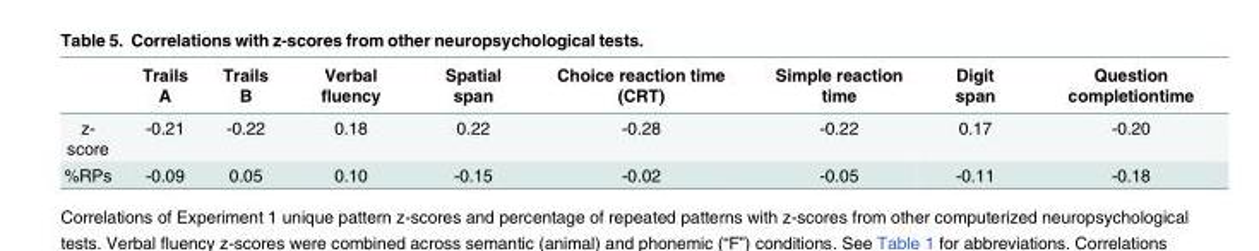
<table><thead><tr><td></td><td>Trails A</td><td>Trails B</td><td>Verbal fluency</td><td>Spatial span</td><td>Choice reaction time (CRT)</td><td>Simple reaction time</td><td>Digit span</td><td>Question completiontime</td></tr></thead><tbody><tr><td>z- score</td><td>-0.21</td><td>-0.22</td><td>0.18</td><td>0.22</td><td>-0.28</td><td>-0.22</td><td>0.17</td><td>-0.20</td></tr><tr><td>%RPs</td><td>-0.09</td><td>0.05</td><td>0.10</td><td>-0.15</td><td>-0.02</td><td>-0.05</td><td>-0.11</td><td>-0.18</td></tr></tbody></table>